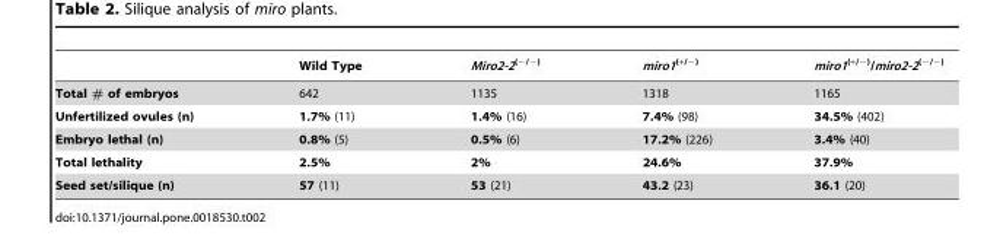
<table><thead><tr><td></td><td>Wild Type</td><td>Miro2-2<sup>(−/−)</sup></td><td>miro1<sup>(+/−)</sup></td><td>miro1<sup>(+/−)</sup>/miro2-2<sup>(−/−)</sup></td></tr></thead><tbody><tr><td>Total # of embryos</td><td>642</td><td>1135</td><td>1318</td><td>1165</td></tr><tr><td>Unfertilized ovules (n)</td><td>1.7% (11)</td><td>1.4% (16)</td><td>7.4% (98)</td><td>34.5% (402)</td></tr><tr><td>Embryo lethal (n)</td><td>0.8% (5)</td><td>0.5% (6)</td><td>17.2% (226)</td><td>3.4% (40)</td></tr><tr><td>Total lethality</td><td>2.5%</td><td>2%</td><td>24.6%</td><td>37.9%</td></tr><tr><td>Seed set/silique (n)</td><td>57 (11)</td><td>53 (21)</td><td>43.2 (23)</td><td>36.1 (20)</td></tr></tbody></table>